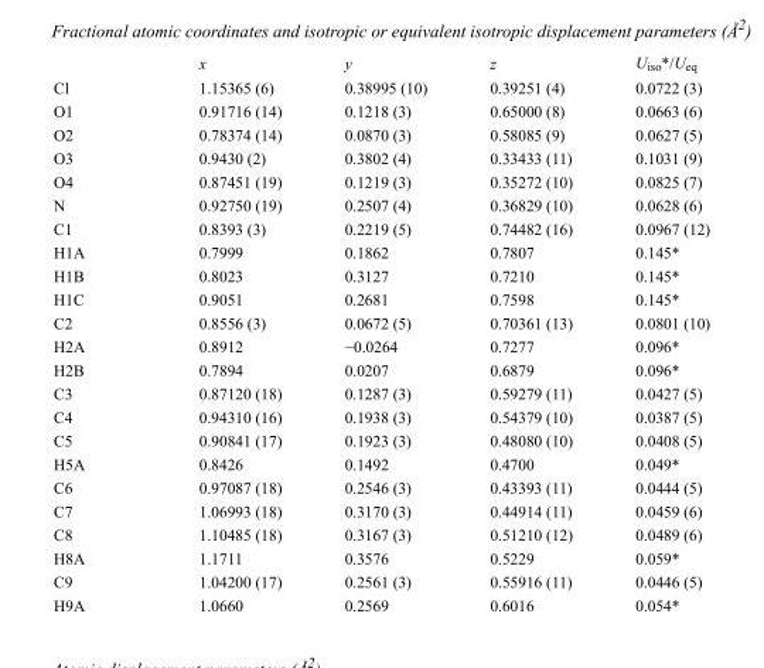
<table><thead><tr><td></td><td>x</td><td>y</td><td>z</td><td>U<sub>iso</sub>*/U<sub>eq</sub></td></tr></thead><tbody><tr><td>Cl</td><td>1.15365 (6)</td><td>0.38995 (10)</td><td>0.39251 (4)</td><td>0.0722 (3)</td></tr><tr><td>O1</td><td>0.91716 (14)</td><td>0.1218 (3)</td><td>0.65000 (8)</td><td>0.0663 (6)</td></tr><tr><td>O2</td><td>0.78374 (14)</td><td>0.0870 (3)</td><td>0.58085 (9)</td><td>0.0627 (5)</td></tr><tr><td>O3</td><td>0.9430 (2)</td><td>0.3802 (4)</td><td>0.33433 (11)</td><td>0.1031 (9)</td></tr><tr><td>O4</td><td>0.87451 (19)</td><td>0.1219 (3)</td><td>0.35272 (10)</td><td>0.0825 (7)</td></tr><tr><td>N</td><td>0.92750 (19)</td><td>0.2507 (4)</td><td>0.36829 (10)</td><td>0.0628 (6)</td></tr><tr><td>C1</td><td>0.8393 (3)</td><td>0.2219 (5)</td><td>0.74482 (16)</td><td>0.0967 (12)</td></tr><tr><td>H1A</td><td>0.7999</td><td>0.1862</td><td>0.7807</td><td>0.145*</td></tr><tr><td>H1B</td><td>0.8023</td><td>0.3127</td><td>0.7210</td><td>0.145*</td></tr><tr><td>H1C</td><td>0.9051</td><td>0.2681</td><td>0.7598</td><td>0.145*</td></tr><tr><td>C2</td><td>0.8556 (3)</td><td>0.0672 (5)</td><td>0.70361 (13)</td><td>0.0801 (10)</td></tr><tr><td>H2A</td><td>0.8912</td><td>−0.0264</td><td>0.7277</td><td>0.096*</td></tr><tr><td>H2B</td><td>0.7894</td><td>0.0207</td><td>0.6879</td><td>0.096*</td></tr><tr><td>C3</td><td>0.87120 (18)</td><td>0.1287 (3)</td><td>0.59279 (11)</td><td>0.0427 (5)</td></tr><tr><td>C4</td><td>0.94310 (16)</td><td>0.1938 (3)</td><td>0.54379 (10)</td><td>0.0387 (5)</td></tr><tr><td>C5</td><td>0.90841 (17)</td><td>0.1923 (3)</td><td>0.48080 (10)</td><td>0.0408 (5)</td></tr><tr><td>H5A</td><td>0.8426</td><td>0.1492</td><td>0.4700</td><td>0.049*</td></tr><tr><td>C6</td><td>0.97087 (18)</td><td>0.2546 (3)</td><td>0.43393 (11)</td><td>0.0444 (5)</td></tr><tr><td>C7</td><td>1.06993 (18)</td><td>0.3170 (3)</td><td>0.44914 (11)</td><td>0.0459 (6)</td></tr><tr><td>C8</td><td>1.10485 (18)</td><td>0.3167 (3)</td><td>0.51210 (12)</td><td>0.0489 (6)</td></tr><tr><td>H8A</td><td>1.1711</td><td>0.3576</td><td>0.5229</td><td>0.059*</td></tr><tr><td>C9</td><td>1.04200 (17)</td><td>0.2561 (3)</td><td>0.55916 (11)</td><td>0.0446 (5)</td></tr><tr><td>H9A</td><td>1.0660</td><td>0.2569</td><td>0.6016</td><td>0.054*</td></tr></tbody></table>